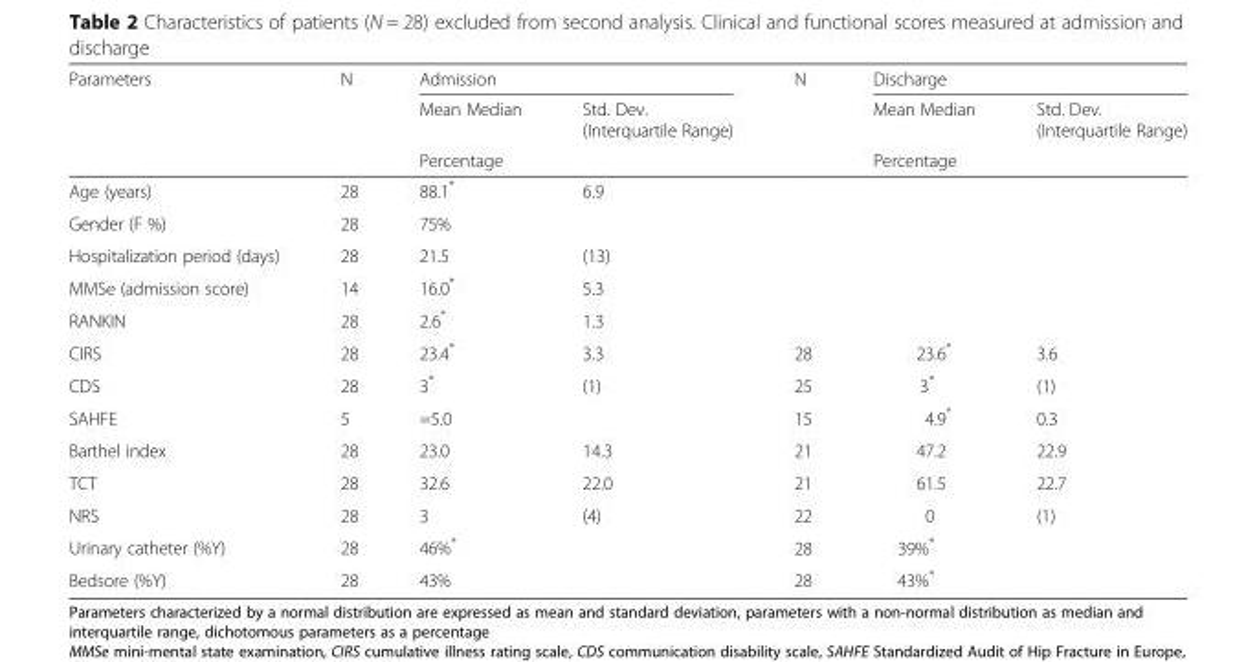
<table><thead><tr><td rowspan="3">Parameters</td><td rowspan="3">N</td><td colspan="2">Admission</td><td rowspan="3">N</td><td colspan="2">Discharge</td></tr><tr><td rowspan="2">Mean Median Percentage</td><td rowspan="2">Std. Dev. (Interquartile Range)</td><td rowspan="2">Mean Median Percentage</td><td rowspan="2">Std. Dev. (Interquartile Range)</td></tr><tr></tr></thead><tbody><tr><td>Age (years)</td><td>28</td><td>88.1*</td><td>6.9</td><td></td><td></td><td></td></tr><tr><td>Gender (F %)</td><td>28</td><td>75%</td><td></td><td></td><td></td><td></td></tr><tr><td>Hospitalization period (days)</td><td>28</td><td>21.5</td><td>(13)</td><td></td><td></td><td></td></tr><tr><td>MMSe (admission score)</td><td>14</td><td>16.0*</td><td>5.3</td><td></td><td></td><td></td></tr><tr><td>RANKIN</td><td>28</td><td>2.6*</td><td>1.3</td><td></td><td></td><td></td></tr><tr><td>CIRS</td><td>28</td><td>23.4*</td><td>3.3</td><td>28</td><td>23.6*</td><td>3.6</td></tr><tr><td>CDS</td><td>28</td><td>3*</td><td>(1)</td><td>25</td><td>3*</td><td>(1)</td></tr><tr><td>SAHFE</td><td>5</td><td>=5.0</td><td></td><td>15</td><td>4.9*</td><td>0.3</td></tr><tr><td>Barthel index</td><td>28</td><td>23.0</td><td>14.3</td><td>21</td><td>47.2</td><td>22.9</td></tr><tr><td>TCT</td><td>28</td><td>32.6</td><td>22.0</td><td>21</td><td>61.5</td><td>22.7</td></tr><tr><td>NRS</td><td>28</td><td>3</td><td>(4)</td><td>22</td><td>0</td><td>(1)</td></tr><tr><td>Urinary catheter (%Y)</td><td>28</td><td>46%*</td><td></td><td>28</td><td>39%*</td><td></td></tr><tr><td>Bedsore (%Y)</td><td>28</td><td>43%</td><td></td><td>28</td><td>43%*</td><td></td></tr></tbody></table>